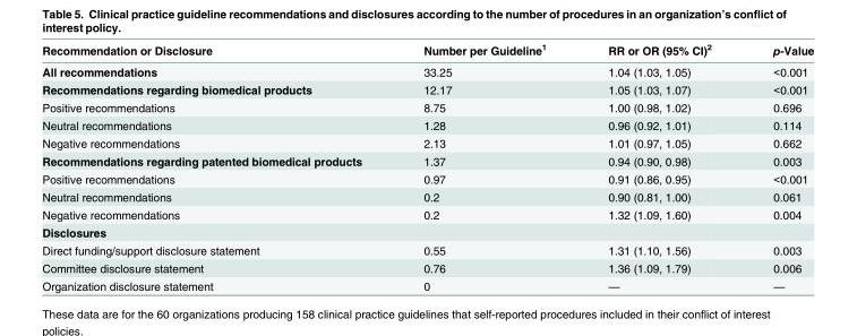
<table><thead><tr><td>Recommendation or Disclosure</td><td>Number per Guideline<sup>1</sup></td><td>RR or OR (95% CI)<sup>2</sup></td><td>p-Value</td></tr></thead><tbody><tr><td>All recommendations</td><td>33.25</td><td>1.04 (1.03, 1.05)</td><td>&lt;0.001</td></tr><tr><td>Recommendations regarding biomedical products</td><td>12.17</td><td>1.05 (1.03, 1.07)</td><td>&lt;0.001</td></tr><tr><td>Positive recommendations</td><td>8.75</td><td>1.00 (0.98, 1.02)</td><td>0.696</td></tr><tr><td>Neutral recommendations</td><td>1.28</td><td>0.96 (0.92, 1.01)</td><td>0.114</td></tr><tr><td>Negative recommendations</td><td>2.13</td><td>1.01 (0.97, 1.05)</td><td>0.662</td></tr><tr><td>Recommendations regarding patented biomedical products</td><td>1.37</td><td>0.94 (0.90, 0.98)</td><td>0.003</td></tr><tr><td>Positive recommendations</td><td>0.97</td><td>0.91 (0.86, 0.95)</td><td>&lt;0.001</td></tr><tr><td>Neutral recommendations</td><td>0.2</td><td>0.90 (0.81, 1.00)</td><td>0.061</td></tr><tr><td>Negative recommendations</td><td>0.2</td><td>1.32 (1.09, 1.60)</td><td>0.004</td></tr><tr><td colspan="4">Disclosures</td></tr><tr><td>Direct funding/support disclosure statement</td><td>0.55</td><td>1.31 (1.10, 1.56)</td><td>0.003</td></tr><tr><td>Committee disclosure statement</td><td>0.76</td><td>1.36 (1.09, 1.79)</td><td>0.006</td></tr><tr><td>Organization disclosure statement</td><td>0</td><td>—</td><td>—</td></tr></tbody></table>